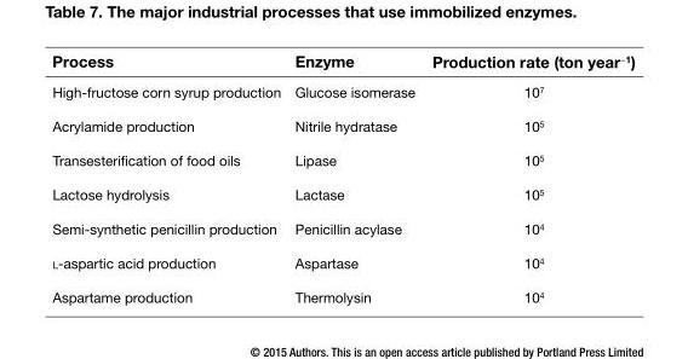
<table><thead><tr><td>Process</td><td>Enzyme</td><td>Production rate (ton year<sup>−1</sup>)</td></tr></thead><tbody><tr><td>High-fructose corn syrup production</td><td>Glucose isomerase</td><td>10<sup>7</sup></td></tr><tr><td>Acrylamide production</td><td>Nitrile hydratase</td><td>10<sup>5</sup></td></tr><tr><td>Transesterification of food oils</td><td>Lipase</td><td>10<sup>5</sup></td></tr><tr><td>Lactose hydrolysis</td><td>Lactase</td><td>10<sup>5</sup></td></tr><tr><td>Semi-synthetic penicillin production</td><td>Penicillin acylase</td><td>10<sup>4</sup></td></tr><tr><td>l-aspartic acid production</td><td>Aspartase</td><td>10<sup>4</sup></td></tr><tr><td>Aspartame production</td><td>Thermolysin</td><td>10<sup>4</sup></td></tr></tbody></table>